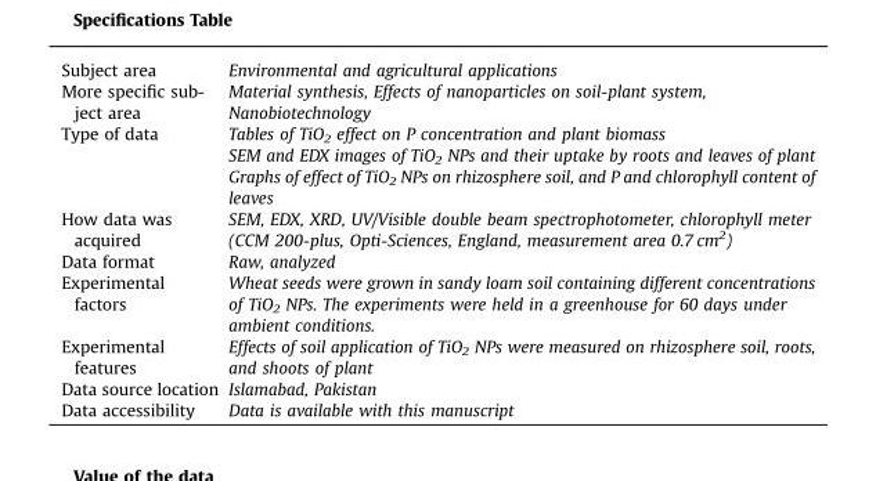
<table><tbody><tr><td>Subject area</td><td>Environmental and agricultural applications</td></tr><tr><td rowspan="2">More specific sub- ject area</td><td>Material synthesis, Effects of nanoparticles on soil-plant system,</td></tr><tr><td>Nanobiotechnology</td></tr><tr><td rowspan="3">Type of data</td><td>Tables of TiO<sub>2</sub> effect on P concentration and plant biomass</td></tr><tr><td>SEM and EDX images of TiO<sub>2</sub> NPs and their uptake by roots and leaves of plant</td></tr><tr><td>Graphs of effect of TiO<sub>2</sub> NPs on rhizosphere soil, and P and chlorophyll content of leaves</td></tr><tr><td>How data was acquired</td><td>SEM, EDX, XRD, UV/Visible double beam spectrophotometer, chlorophyll meter (CCM 200-plus, Opti-Sciences, England, measurement area 0.7 cm<sup>2</sup>)</td></tr><tr><td>Data format</td><td>Raw, analyzed</td></tr><tr><td>Experimental factors</td><td>Wheat seeds were grown in sandy loam soil containing different concentrations of TiO<sub>2</sub> NPs. The experiments were held in a greenhouse for 60 days under ambient conditions.</td></tr><tr><td>Experimental features</td><td>Effects of soil application of TiO<sub>2</sub> NPs were measured on rhizosphere soil, roots, and shoots of plant</td></tr><tr><td>Data source location</td><td>Islamabad, Pakistan</td></tr><tr><td>Data accessibility</td><td>Data is available with this manuscript</td></tr></tbody></table>